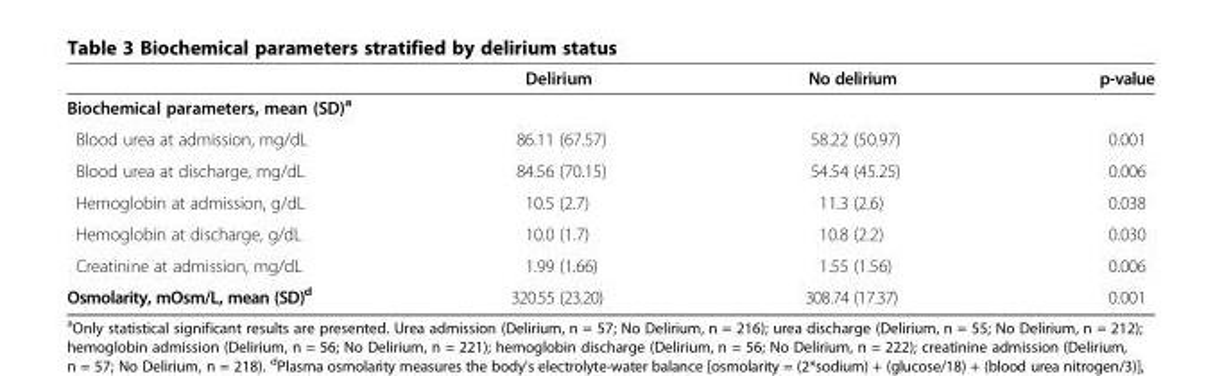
<table><thead><tr><td></td><td>Delirium</td><td>No delirium</td><td>p-value</td></tr></thead><tbody><tr><td colspan="4">Biochemical parameters, mean (SD)<sup>a</sup></td></tr><tr><td>Blood urea at admission, mg/dL</td><td>86.11 (67.57)</td><td>58.22 (50.97)</td><td>0.001</td></tr><tr><td>Blood urea at discharge, mg/dL</td><td>84.56 (70.15)</td><td>54.54 (45.25)</td><td>0.006</td></tr><tr><td>Hemoglobin at admission, g/dL</td><td>10.5 (2.7)</td><td>11.3 (2.6)</td><td>0.038</td></tr><tr><td>Hemoglobin at discharge, g/dL</td><td>10.0 (1.7)</td><td>10.8 (2.2)</td><td>0.030</td></tr><tr><td>Creatinine at admission, mg/dL</td><td>1.99 (1.66)</td><td>1.55 (1.56)</td><td>0.006</td></tr><tr><td>Osmolarity, mOsm/L, mean (SD)<sup>d</sup></td><td>320.55 (23.20)</td><td>308.74 (17.37)</td><td>0.001</td></tr></tbody></table>